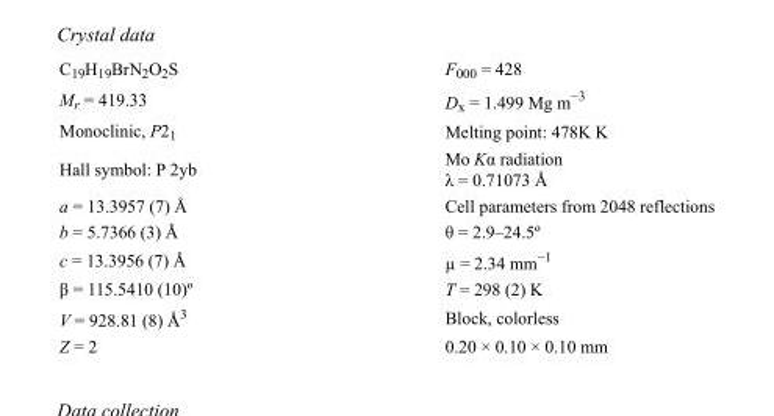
<table><tbody><tr><td>C<sub>19</sub>H<sub>19</sub>BrN<sub>2</sub>O<sub>2</sub>S</td><td>F<sub>000</sub> = 428</td></tr><tr><td>M<sub>r</sub> = 419.33</td><td>D<sub>x</sub> = 1.499 Mg m<sup>−3</sup></td></tr><tr><td>Monoclinic, P2<sub>1</sub></td><td>Melting point: 478K K</td></tr><tr><td>Hall symbol: P 2yb</td><td>Mo Kα radiation λ = 0.71073 Å</td></tr><tr><td>a = 13.3957 (7) Å</td><td>Cell parameters from 2048 reflections</td></tr><tr><td>b = 5.7366 (3) Å</td><td>θ = 2.9–24.5º</td></tr><tr><td>c = 13.3956 (7) Å</td><td>µ = 2.34 mm<sup>−1</sup></td></tr><tr><td>β = 115.5410 (10)º</td><td>T = 298 (2) K</td></tr><tr><td>V = 928.81 (8) Å<sup>3</sup></td><td>Block, colorless</td></tr><tr><td>Z = 2</td><td>0.20 × 0.10 × 0.10 mm</td></tr></tbody></table>